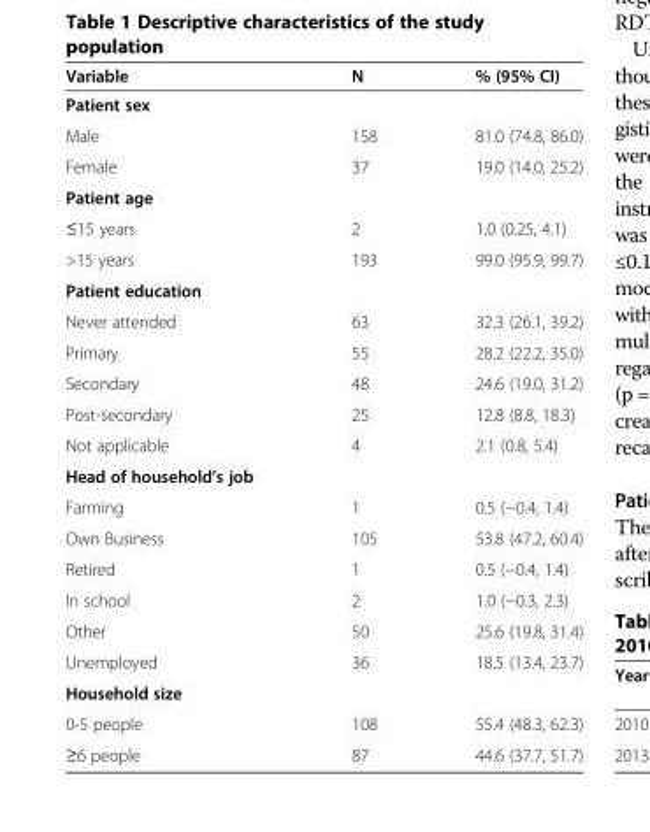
<table><thead><tr><td>Variable</td><td>N</td><td>% (95% CI)</td></tr></thead><tbody><tr><td colspan="3">Patient sex</td></tr><tr><td>Male</td><td>158</td><td>81.0 (74.8, 86.0)</td></tr><tr><td>Female</td><td>37</td><td>19.0 (14.0, 25.2)</td></tr><tr><td colspan="3">Patient age</td></tr><tr><td>≤15 years</td><td>2</td><td>1.0 (0.25, 4.1)</td></tr><tr><td>&gt;15 years</td><td>193</td><td>99.0 (95.9, 99.7)</td></tr><tr><td colspan="3">Patient education</td></tr><tr><td>Never attended</td><td>63</td><td>32.3 (26.1, 39.2)</td></tr><tr><td>Primary</td><td>55</td><td>28.2 (22.2, 35.0)</td></tr><tr><td>Secondary</td><td>48</td><td>24.6 (19.0, 31.2)</td></tr><tr><td>Post-secondary</td><td>25</td><td>12.8 (8.8, 18.3)</td></tr><tr><td>Not applicable</td><td>4</td><td>2.1 (0.8, 5.4)</td></tr><tr><td colspan="3">Head of household’s job</td></tr><tr><td>Farming</td><td>1</td><td>0.5 (−0.4, 1.4)</td></tr><tr><td>Own Business</td><td>105</td><td>53.8 (47.2, 60.4)</td></tr><tr><td>Retired</td><td>1</td><td>0.5 (−0.4, 1.4)</td></tr><tr><td>In school</td><td>2</td><td>1.0 (−0.3, 2.3)</td></tr><tr><td>Other</td><td>50</td><td>25.6 (19.8, 31.4)</td></tr><tr><td>Unemployed</td><td>36</td><td>18.5 (13.4, 23.7)</td></tr><tr><td colspan="3">Household size</td></tr><tr><td>0-5 people</td><td>108</td><td>55.4 (48.3, 62.3)</td></tr><tr><td>≥6 people</td><td>87</td><td>44.6 (37.7, 51.7)</td></tr></tbody></table>